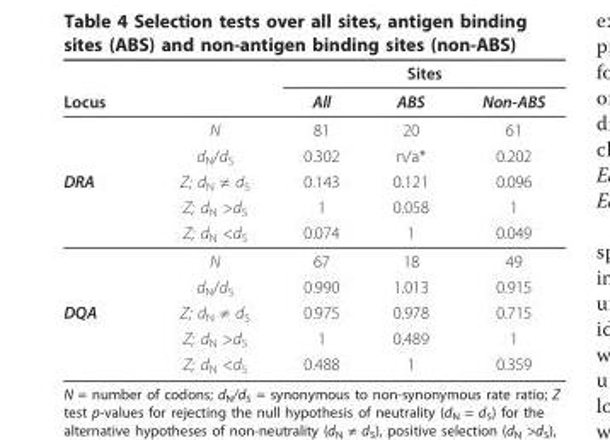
<table><thead><tr><td rowspan="2">Locus</td><td rowspan="2"></td><td colspan="3">Sites</td></tr><tr><td>All</td><td>ABS</td><td>Non-ABS</td></tr></thead><tbody><tr><td></td><td>N</td><td>81</td><td>20</td><td>61</td></tr><tr><td></td><td>d<sub>N</sub>/d<sub>S</sub></td><td>0.302</td><td>n/a*</td><td>0.202</td></tr><tr><td rowspan="5">DRA</td><td>Z; d<sub>N</sub> ≠ d<sub>S</sub></td><td>0.143</td><td>0.121</td><td>0.096</td></tr><tr><td>Z; d<sub>N</sub> &gt;d<sub>S</sub></td><td>1</td><td>0.058</td><td>1</td></tr><tr><td>Z; d<sub>N</sub> &lt;d<sub>S</sub></td><td>0.074</td><td>1</td><td>0.049</td></tr><tr><td>N</td><td>67</td><td>18</td><td>49</td></tr><tr><td>d<sub>N</sub>/d<sub>S</sub></td><td>0.990</td><td>1.013</td><td>0.915</td></tr><tr><td rowspan="3">DQA</td><td>Z; d<sub>N</sub> ≠ d<sub>S</sub></td><td>0.975</td><td>0.978</td><td>0.715</td></tr><tr><td>Z; d<sub>N</sub> &gt;d<sub>S</sub></td><td>1</td><td>0.489</td><td>1</td></tr><tr><td>Z; d<sub>N</sub> &lt;d<sub>S</sub></td><td>0.488</td><td>1</td><td>0.359</td></tr></tbody></table>